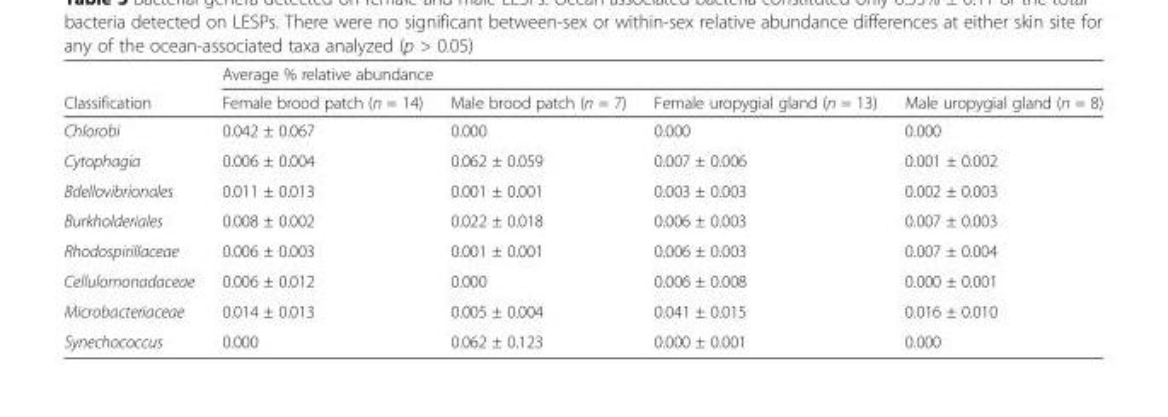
<table><thead><tr><td rowspan="2">Classification</td><td colspan="4">Average % relative abundance</td></tr><tr><td>Female brood patch (n = 14)</td><td>Male brood patch (n = 7)</td><td>Female uropygial gland (n = 13)</td><td>Male uropygial gland (n = 8)</td></tr></thead><tbody><tr><td>Chlorobi</td><td>0.042 ± 0.067</td><td>0.000</td><td>0.000</td><td>0.000</td></tr><tr><td>Cytophagia</td><td>0.006 ± 0.004</td><td>0.062 ± 0.059</td><td>0.007 ± 0.006</td><td>0.001 ± 0.002</td></tr><tr><td>Bdellovibrionales</td><td>0.011 ± 0.013</td><td>0.001 ± 0.001</td><td>0.003 ± 0.003</td><td>0.002 ± 0.003</td></tr><tr><td>Burkholderiales</td><td>0.008 ± 0.002</td><td>0.022 ± 0.018</td><td>0.006 ± 0.003</td><td>0.007 ± 0.003</td></tr><tr><td>Rhodospirillaceae</td><td>0.006 ± 0.003</td><td>0.001 ± 0.001</td><td>0.006 ± 0.003</td><td>0.007 ± 0.004</td></tr><tr><td>Cellulomonadaceae</td><td>0.006 ± 0.012</td><td>0.000</td><td>0.006 ± 0.008</td><td>0.000 ± 0.001</td></tr><tr><td>Microbacteriaceae</td><td>0.014 ± 0.013</td><td>0.005 ± 0.004</td><td>0.041 ± 0.015</td><td>0.016 ± 0.010</td></tr><tr><td>Synechococcus</td><td>0.000</td><td>0.062 ± 0.123</td><td>0.000 ± 0.001</td><td>0.000</td></tr></tbody></table>